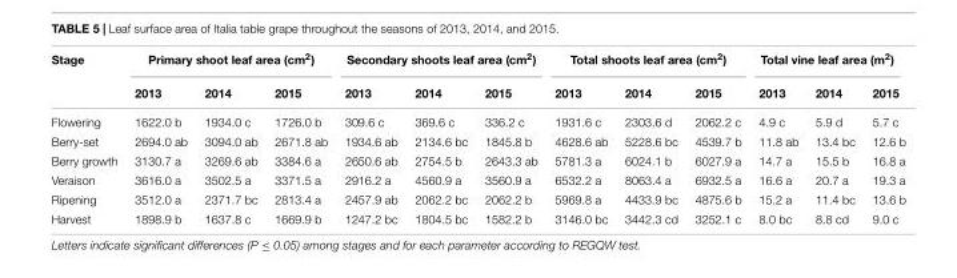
<table><thead><tr><td rowspan="2">Stage</td><td colspan="3">Primary shoot leaf area (cm<sup>2</sup>)</td><td colspan="3">Secondary shoots leaf area (cm<sup>2</sup>)</td><td colspan="3">Total shoots leaf area (cm<sup>2</sup>)</td><td colspan="3">Total vine leaf area (m<sup>2</sup>)</td></tr><tr><td>2013</td><td>2014</td><td>2015</td><td>2013</td><td>2014</td><td>2015</td><td>2013</td><td>2014</td><td>2015</td><td>2013</td><td>2014</td><td>2015</td></tr></thead><tbody><tr><td>Flowering</td><td>1622.0 b</td><td>1934.0 c</td><td>1726.0 b</td><td>309.6 c</td><td>369.6 c</td><td>336.2 c</td><td>1931.6 c</td><td>2303.6 d</td><td>2062.2 c</td><td>4.9 c</td><td>5.9 d</td><td>5.7 c</td></tr><tr><td>Berry-set</td><td>2694.0 ab</td><td>3094.0 ab</td><td>2671.8 ab</td><td>1934.6 ab</td><td>2134.6 bc</td><td>1845.8 b</td><td>4628.6 ab</td><td>5228.6 bc</td><td>4539.7 b</td><td>11.8 ab</td><td>13.4 bc</td><td>12.6 b</td></tr><tr><td>Berry growth</td><td>3130.7 a</td><td>3269.6 ab</td><td>3384.6 a</td><td>2650.6 ab</td><td>2754.5 b</td><td>2643.3 ab</td><td>5781.3 a</td><td>6024.1 b</td><td>6027.9 a</td><td>14.7 a</td><td>15.5 b</td><td>16.8 a</td></tr><tr><td>Veraison</td><td>3616.0 a</td><td>3502.5 a</td><td>3371.5 a</td><td>2916.2 a</td><td>4560.9 a</td><td>3560.9 a</td><td>6532.2 a</td><td>8063.4 a</td><td>6932.5 a</td><td>16.6 a</td><td>20.7 a</td><td>19.3 a</td></tr><tr><td>Ripening</td><td>3512.0 a</td><td>2371.7 bc</td><td>2813.4 a</td><td>2457.9 ab</td><td>2062.2 bc</td><td>2062.2 b</td><td>5969.8 a</td><td>4433.9 bc</td><td>4875.6 b</td><td>15.2 a</td><td>11.4 bc</td><td>13.6 b</td></tr><tr><td>Harvest</td><td>1898.9 b</td><td>1637.8 c</td><td>1669.9 b</td><td>1247.2 bc</td><td>1804.5 bc</td><td>1582.2 b</td><td>3146.0 bc</td><td>3442.3 cd</td><td>3252.1 c</td><td>8.0 bc</td><td>8.8 cd</td><td>9.0 c</td></tr></tbody></table>